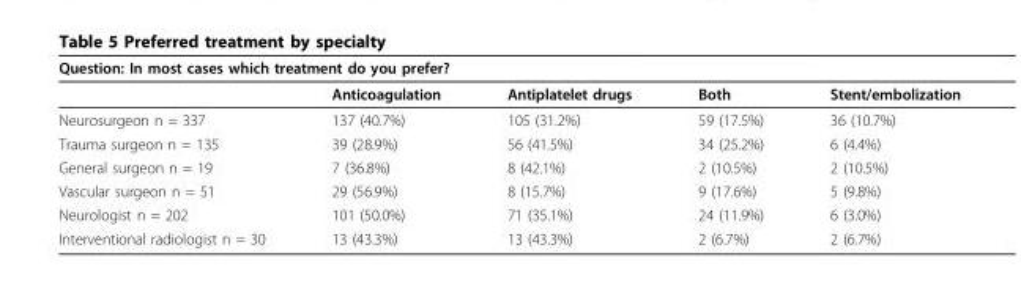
<table><thead><tr><td colspan="5">Question: In most cases which treatment do you prefer?</td></tr><tr><td></td><td>Anticoagulation</td><td>Antiplatelet drugs</td><td>Both</td><td>Stent/embolization</td></tr></thead><tbody><tr><td>Neurosurgeon n = 337</td><td>137 (40.7%)</td><td>105 (31.2%)</td><td>59 (17.5%)</td><td>36 (10.7%)</td></tr><tr><td>Trauma surgeon n = 135</td><td>39 (28.9%)</td><td>56 (41.5%)</td><td>34 (25.2%)</td><td>6 (4.4%)</td></tr><tr><td>General surgeon n = 19</td><td>7 (36.8%)</td><td>8 (42.1%)</td><td>2 (10.5%)</td><td>2 (10.5%)</td></tr><tr><td>Vascular surgeon n = 51</td><td>29 (56.9%)</td><td>8 (15.7%)</td><td>9 (17.6%)</td><td>5 (9.8%)</td></tr><tr><td>Neurologist n = 202</td><td>101 (50.0%)</td><td>71 (35.1%)</td><td>24 (11.9%)</td><td>6 (3.0%)</td></tr><tr><td>Interventional radiologist n = 30</td><td>13 (43.3%)</td><td>13 (43.3%)</td><td>2 (6.7%)</td><td>2 (6.7%)</td></tr></tbody></table>